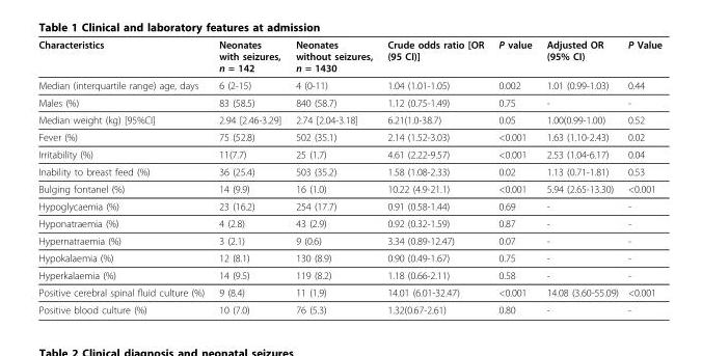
<table><thead><tr><td>Characteristics</td><td>Neonates with seizures, n = 142</td><td>Neonates without seizures, n = 1430</td><td>Crude odds ratio [OR (95 CI)]</td><td>P value</td><td>Adjusted OR (95% CI)</td><td>P Value</td></tr></thead><tbody><tr><td>Median (interquartile range) age, days</td><td>6 (2-15)</td><td>4 (0-11)</td><td>1.04 (1.01-1.05)</td><td>0.002</td><td>1.01 (0.99-1.03)</td><td>0.44</td></tr><tr><td>Males (%)</td><td>83 (58.5)</td><td>840 (58.7)</td><td>1.12 (0.75-1.49)</td><td>0.75</td><td>-</td><td>-</td></tr><tr><td>Median weight (kg) [95%CI]</td><td>2.94 [2.46-3.29]</td><td>2.74 [2.04-3.18]</td><td>6.21(1.0-38.7)</td><td>0.05</td><td>1.00(0.99-1.00)</td><td>0.52</td></tr><tr><td>Fever (%)</td><td>75 (52.8)</td><td>502 (35.1)</td><td>2.14 (1.52-3.03)</td><td>&lt;0.001</td><td>1.63 (1.10-2.43)</td><td>0.02</td></tr><tr><td>Irritability (%)</td><td>11(7.7)</td><td>25 (1.7)</td><td>4.61 (2.22-9.57)</td><td>&lt;0.001</td><td>2.53 (1.04-6.17)</td><td>0.04</td></tr><tr><td>Inability to breast feed (%)</td><td>36 (25.4)</td><td>503 (35.2)</td><td>1.58 (1.08-2.33)</td><td>0.02</td><td>1.13 (0.71-1.81)</td><td>0.53</td></tr><tr><td>Bulging fontanel (%)</td><td>14 (9.9)</td><td>16 (1.0)</td><td>10.22 (4.9-21.1)</td><td>&lt;0.001</td><td>5.94 (2.65-13.30)</td><td>&lt;0.001</td></tr><tr><td>Hypoglycaemia (%)</td><td>23 (16.2)</td><td>254 (17.7)</td><td>0.91 (0.58-1.44)</td><td>0.69</td><td>-</td><td>-</td></tr><tr><td>Hyponatraemia (%)</td><td>4 (2.8)</td><td>43 (2.9)</td><td>0.92 (0.32-1.59)</td><td>0.87</td><td>-</td><td>-</td></tr><tr><td>Hypernatraemia (%)</td><td>3 (2.1)</td><td>9 (0.6)</td><td>3.34 (0.89-12.47)</td><td>0.07</td><td>-</td><td>-</td></tr><tr><td>Hypokalaemia (%)</td><td>12 (8.1)</td><td>130 (8.9)</td><td>0.90 (0.49-1.67)</td><td>0.75</td><td>-</td><td>-</td></tr><tr><td>Hyperkalaemia (%)</td><td>14 (9.5)</td><td>119 (8.2)</td><td>1.18 (0.66-2.11)</td><td>0.58</td><td>-</td><td>-</td></tr><tr><td>Positive cerebral spinal fluid culture (%)</td><td>9 (8.4)</td><td>11 (1.9)</td><td>14.01 (6.01-32.47)</td><td>&lt;0.001</td><td>14.08 (3.60-55.09)</td><td>&lt;0.001</td></tr><tr><td>Positive blood culture (%)</td><td>10 (7.0)</td><td>76 (5.3)</td><td>1.32(0.67-2.61)</td><td>0.80</td><td>-</td><td>-</td></tr></tbody></table>